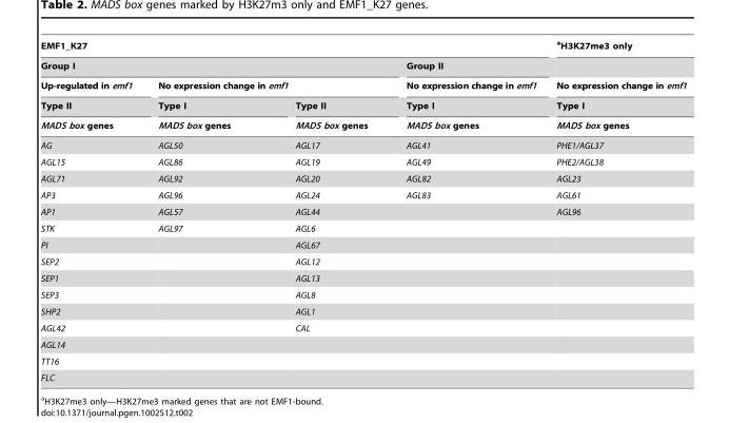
<table><thead><tr><td colspan="4">EMF1_K27</td><td rowspan="5">aH3K27me3 only No expression change in emf1 Type I MADS box genes</td></tr><tr><td colspan="3">Group I</td><td rowspan="4">Group II No expression change in emf1 Type I MADS box genes</td></tr><tr><td rowspan="3">Up-regulated in emf1 Type II MADS box genes</td><td colspan="2">No expression change in emf1</td></tr><tr><td rowspan="2">Type I MADS box genes</td><td rowspan="2">Type II MADS box genes</td></tr><tr></tr></thead><tbody><tr><td>AG</td><td>AGL50</td><td>AGL17</td><td>AGL41</td><td>PHE1/AGL37</td></tr><tr><td>AGL15</td><td>AGL86</td><td>AGL19</td><td>AGL49</td><td>PHE2/AGL38</td></tr><tr><td>AGL71</td><td>AGL92</td><td>AGL20</td><td>AGL82</td><td>AGL23</td></tr><tr><td>AP3</td><td>AGL96</td><td>AGL24</td><td>AGL83</td><td>AGL61</td></tr><tr><td>AP1</td><td>AGL57</td><td>AGL44</td><td></td><td>AGL96</td></tr><tr><td>STK</td><td>AGL97</td><td>AGL6</td><td></td><td></td></tr><tr><td>PI</td><td></td><td>AGL67</td><td></td><td></td></tr><tr><td>SEP2</td><td></td><td>AGL12</td><td></td><td></td></tr><tr><td>SEP1</td><td></td><td>AGL13</td><td></td><td></td></tr><tr><td>SEP3</td><td></td><td>AGL8</td><td></td><td></td></tr><tr><td>SHP2</td><td></td><td>AGL1</td><td></td><td></td></tr><tr><td>AGL42</td><td></td><td>CAL</td><td></td><td></td></tr><tr><td colspan="5">AGL14</td></tr><tr><td colspan="5">TT16</td></tr><tr><td>FLC</td><td></td><td></td><td></td><td></td></tr></tbody></table>